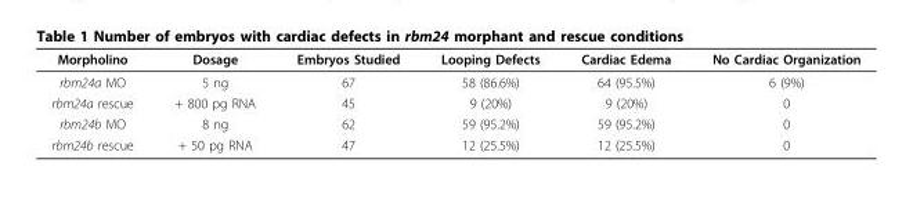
<table><thead><tr><td>Morpholino</td><td>Dosage</td><td>Embryos Studied</td><td>Looping Defects</td><td>Cardiac Edema</td><td>No Cardiac Organization</td></tr></thead><tbody><tr><td>rbm24a MO</td><td>5 ng</td><td>67</td><td>58 (86.6%)</td><td>64 (95.5%)</td><td>6 (9%)</td></tr><tr><td>rbm24a rescue</td><td>+ 800 pg RNA</td><td>45</td><td>9 (20%)</td><td>9 (20%)</td><td>0</td></tr><tr><td>rbm24b MO</td><td>8 ng</td><td>62</td><td>59 (95.2%)</td><td>59 (95.2%)</td><td>0</td></tr><tr><td>rbm24b rescue</td><td>+ 50 pg RNA</td><td>47</td><td>12 (25.5%)</td><td>12 (25.5%)</td><td>0</td></tr></tbody></table>